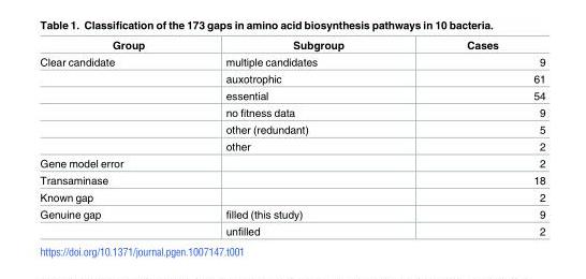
<table><thead><tr><td>Group</td><td>Subgroup</td><td>Cases</td></tr></thead><tbody><tr><td rowspan="6">Clear candidate</td><td>multiple candidates</td><td>9</td></tr><tr><td>auxotrophic</td><td>61</td></tr><tr><td>essential</td><td>54</td></tr><tr><td>no fitness data</td><td>9</td></tr><tr><td>other (redundant)</td><td>5</td></tr><tr><td>other</td><td>2</td></tr><tr><td>Gene model error</td><td></td><td>2</td></tr><tr><td>Transaminase</td><td></td><td>18</td></tr><tr><td>Known gap</td><td></td><td>2</td></tr><tr><td rowspan="2">Genuine gap</td><td>filled (this study)</td><td>9</td></tr><tr><td>unfilled</td><td>2</td></tr></tbody></table>